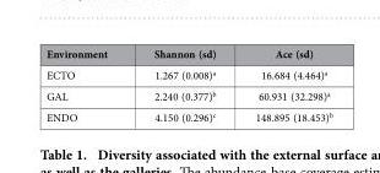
<table><thead><tr><td>Environment</td><td>Shannon (sd)</td><td>Ace (sd)</td></tr></thead><tbody><tr><td>ECTO</td><td>1.267 (0.008)<sup>a</sup></td><td>16.684 (4.464)<sup>a</sup></td></tr><tr><td>GAL</td><td>2.240 (0.377)<sup>b</sup></td><td>60.931 (32.298)<sup>a</sup></td></tr><tr><td>ENDO</td><td>4.150 (0.296)<sup>c</sup></td><td>148.895 (18.453)<sup>b</sup></td></tr></tbody></table>